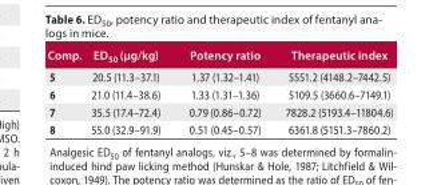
<table><thead><tr><td>Comp.</td><td>ED<sub>50</sub> (μg/kg)</td><td>Potency ratio</td><td>Therapeutic index</td></tr></thead><tbody><tr><td>5</td><td>20.5 (11.3–37.1)</td><td>1.37 (1.32–1.41)</td><td>5551.2 (4148.2–7442.5)</td></tr><tr><td>6</td><td>21.0 (11.4–38.6)</td><td>1.33 (1.31–1.36)</td><td>5109.5 (3660.6–7149.1)</td></tr><tr><td>7</td><td>35.5 (17.4–72.4)</td><td>0.79 (0.86–0.72)</td><td>7828.2 (5193.4–11804.6)</td></tr><tr><td>8</td><td>55.0 (32.9–91.9)</td><td>0.51 (0.45–0.57)</td><td>6361.8 (5151.3–7860.2)</td></tr></tbody></table>